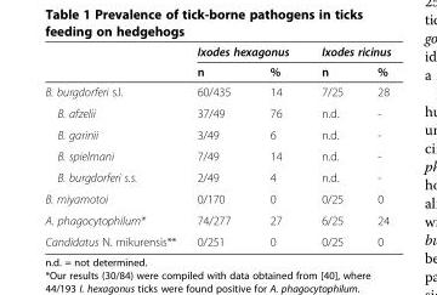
<table><thead><tr><td rowspan="2"></td><td colspan="2">Ixodes hexagonus</td><td colspan="2">Ixodes ricinus</td></tr><tr><td>n</td><td>%</td><td>n</td><td>%</td></tr></thead><tbody><tr><td>B. burgdorferi s.l.</td><td>60/435</td><td>14</td><td>7/25</td><td>28</td></tr><tr><td>B. afzelii</td><td>37/49</td><td>76</td><td>n.d.</td><td>-</td></tr><tr><td>B. garinii</td><td>3/49</td><td>6</td><td>n.d.</td><td>-</td></tr><tr><td>B. spielmani</td><td>7/49</td><td>14</td><td>n.d.</td><td>-</td></tr><tr><td>B. burgdorferi s.s.</td><td>2/49</td><td>4</td><td>n.d.</td><td>-</td></tr><tr><td>B. miyamotoi</td><td>0/170</td><td>0</td><td>0/25</td><td>0</td></tr><tr><td>A. phagocytophilum*</td><td>74/277</td><td>27</td><td>6/25</td><td>24</td></tr><tr><td>Candidatus N. mikurensis**</td><td>0/251</td><td>0</td><td>0/25</td><td>0</td></tr></tbody></table>